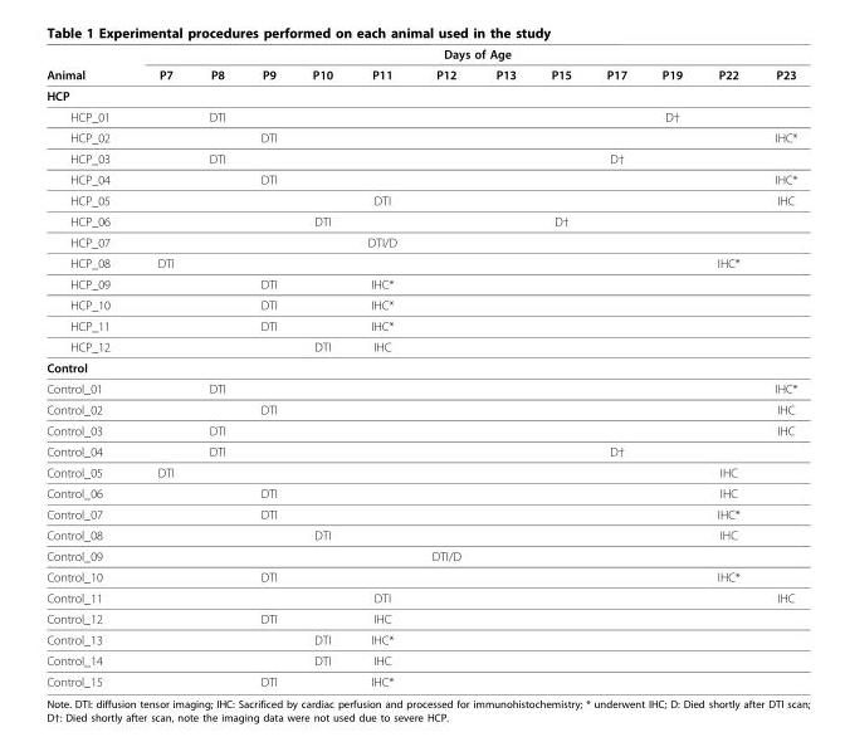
<table><thead><tr><td rowspan="2">Animal</td><td colspan="12">Days of Age</td></tr><tr><td>P7</td><td>P8</td><td>P9</td><td>P10</td><td>P11</td><td>P12</td><td>P13</td><td>P15</td><td>P17</td><td>P19</td><td>P22</td><td>P23</td></tr></thead><tbody><tr><td colspan="13">HCP</td></tr><tr><td>HCP_01</td><td></td><td>DTI</td><td></td><td></td><td></td><td></td><td></td><td></td><td></td><td>D†</td><td></td><td></td></tr><tr><td>HCP_02</td><td></td><td></td><td>DTI</td><td></td><td></td><td></td><td></td><td></td><td></td><td></td><td></td><td>IHC*</td></tr><tr><td>HCP_03</td><td></td><td>DTI</td><td></td><td></td><td></td><td></td><td></td><td></td><td>D†</td><td></td><td></td><td></td></tr><tr><td>HCP_04</td><td></td><td></td><td>DTI</td><td></td><td></td><td></td><td></td><td></td><td></td><td></td><td></td><td>IHC*</td></tr><tr><td>HCP_05</td><td></td><td></td><td></td><td></td><td>DTI</td><td></td><td></td><td></td><td></td><td></td><td></td><td>IHC</td></tr><tr><td>HCP_06</td><td></td><td></td><td></td><td>DTI</td><td></td><td></td><td></td><td>D†</td><td></td><td></td><td></td><td></td></tr><tr><td>HCP_07</td><td></td><td></td><td></td><td></td><td>DTI/D</td><td></td><td></td><td></td><td></td><td></td><td></td><td></td></tr><tr><td>HCP_08</td><td>DTI</td><td></td><td></td><td></td><td></td><td></td><td></td><td></td><td></td><td></td><td>IHC*</td><td></td></tr><tr><td>HCP_09</td><td></td><td></td><td>DTI</td><td></td><td>IHC*</td><td></td><td></td><td></td><td></td><td></td><td></td><td></td></tr><tr><td>HCP_10</td><td></td><td></td><td>DTI</td><td></td><td>IHC*</td><td></td><td></td><td></td><td></td><td></td><td></td><td></td></tr><tr><td>HCP_11</td><td></td><td></td><td>DTI</td><td></td><td>IHC*</td><td></td><td></td><td></td><td></td><td></td><td></td><td></td></tr><tr><td>HCP_12</td><td></td><td></td><td></td><td>DTI</td><td>IHC</td><td></td><td></td><td></td><td></td><td></td><td></td><td></td></tr><tr><td colspan="13">Control</td></tr><tr><td>Control_01</td><td></td><td>DTI</td><td></td><td></td><td></td><td></td><td></td><td></td><td></td><td></td><td></td><td>IHC*</td></tr><tr><td>Control_02</td><td></td><td></td><td>DTI</td><td></td><td></td><td></td><td></td><td></td><td></td><td></td><td></td><td>IHC</td></tr><tr><td>Control_03</td><td></td><td>DTI</td><td></td><td></td><td></td><td></td><td></td><td></td><td></td><td></td><td></td><td>IHC</td></tr><tr><td>Control_04</td><td></td><td>DTI</td><td></td><td></td><td></td><td></td><td></td><td></td><td>D†</td><td></td><td></td><td></td></tr><tr><td>Control_05</td><td>DTI</td><td></td><td></td><td></td><td></td><td></td><td></td><td></td><td></td><td></td><td>IHC</td><td></td></tr><tr><td>Control_06</td><td></td><td></td><td>DTI</td><td></td><td></td><td></td><td></td><td></td><td></td><td></td><td>IHC</td><td></td></tr><tr><td>Control_07</td><td></td><td></td><td>DTI</td><td></td><td></td><td></td><td></td><td></td><td></td><td></td><td>IHC*</td><td></td></tr><tr><td>Control_08</td><td></td><td></td><td></td><td>DTI</td><td></td><td></td><td></td><td></td><td></td><td></td><td>IHC</td><td></td></tr><tr><td>Control_09</td><td></td><td></td><td></td><td></td><td></td><td>DTI/D</td><td></td><td></td><td></td><td></td><td></td><td></td></tr><tr><td>Control_10</td><td></td><td></td><td>DTI</td><td></td><td></td><td></td><td></td><td></td><td></td><td></td><td>IHC*</td><td></td></tr><tr><td>Control_11</td><td></td><td></td><td></td><td></td><td>DTI</td><td></td><td></td><td></td><td></td><td></td><td></td><td>IHC</td></tr><tr><td>Control_12</td><td></td><td></td><td>DTI</td><td></td><td>IHC</td><td></td><td></td><td></td><td></td><td></td><td></td><td></td></tr><tr><td>Control_13</td><td></td><td></td><td></td><td>DTI</td><td>IHC*</td><td></td><td></td><td></td><td></td><td></td><td></td><td></td></tr><tr><td>Control_14</td><td></td><td></td><td></td><td>DTI</td><td>IHC</td><td></td><td></td><td></td><td></td><td></td><td></td><td></td></tr><tr><td>Control_15</td><td></td><td></td><td>DTI</td><td></td><td>IHC*</td><td></td><td></td><td></td><td></td><td></td><td></td><td></td></tr></tbody></table>